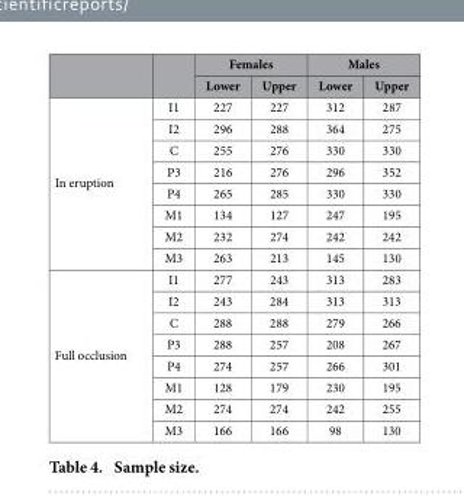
<table><thead><tr><td rowspan="2"></td><td rowspan="2"></td><td colspan="2">Females</td><td colspan="2">Males</td></tr><tr><td>Lower</td><td>Upper</td><td>Lower</td><td>Upper</td></tr></thead><tbody><tr><td rowspan="8">In eruption</td><td>I1</td><td>227</td><td>227</td><td>312</td><td>287</td></tr><tr><td>I2</td><td>296</td><td>288</td><td>364</td><td>275</td></tr><tr><td>C</td><td>255</td><td>276</td><td>330</td><td>330</td></tr><tr><td>P3</td><td>216</td><td>276</td><td>296</td><td>352</td></tr><tr><td>P4</td><td>265</td><td>285</td><td>330</td><td>330</td></tr><tr><td>M1</td><td>134</td><td>127</td><td>247</td><td>195</td></tr><tr><td>M2</td><td>232</td><td>274</td><td>242</td><td>242</td></tr><tr><td>M3</td><td>263</td><td>213</td><td>145</td><td>130</td></tr><tr><td rowspan="8">Full occlusion</td><td>I1</td><td>277</td><td>243</td><td>313</td><td>283</td></tr><tr><td>I2</td><td>243</td><td>284</td><td>313</td><td>313</td></tr><tr><td>C</td><td>288</td><td>288</td><td>279</td><td>266</td></tr><tr><td>P3</td><td>288</td><td>257</td><td>208</td><td>267</td></tr><tr><td>P4</td><td>274</td><td>257</td><td>266</td><td>301</td></tr><tr><td>M1</td><td>128</td><td>179</td><td>230</td><td>195</td></tr><tr><td>M2</td><td>274</td><td>274</td><td>242</td><td>255</td></tr><tr><td>M3</td><td>166</td><td>166</td><td>98</td><td>130</td></tr></tbody></table>